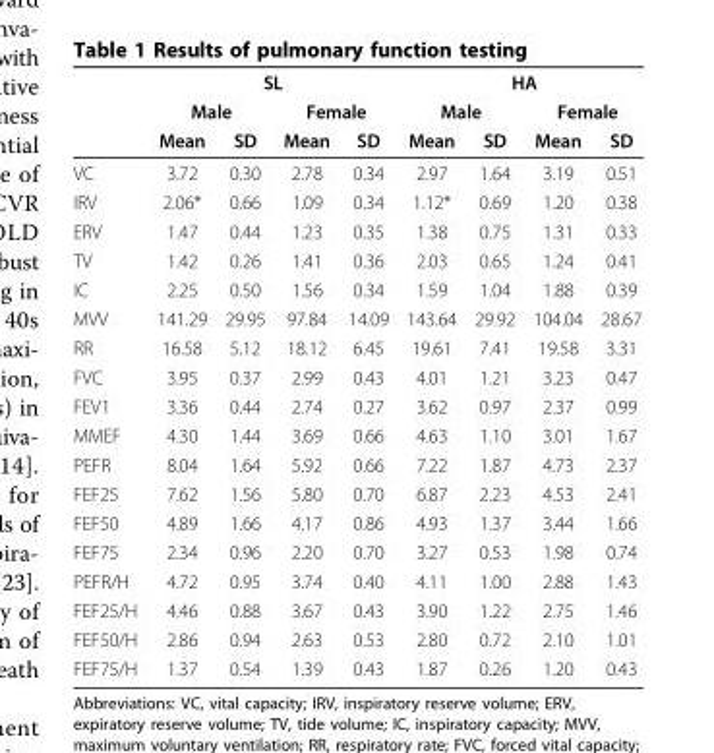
<table><thead><tr><td rowspan="3"></td><td colspan="4">SL</td><td colspan="4">HA</td></tr><tr><td colspan="2">Male</td><td colspan="2">Female</td><td colspan="2">Male</td><td colspan="2">Female</td></tr><tr><td>Mean</td><td>SD</td><td>Mean</td><td>SD</td><td>Mean</td><td>SD</td><td>Mean</td><td>SD</td></tr></thead><tbody><tr><td>VC</td><td>3.72</td><td>0.30</td><td>2.78</td><td>0.34</td><td>2.97</td><td>1.64</td><td>3.19</td><td>0.51</td></tr><tr><td>IRV</td><td>2.06*</td><td>0.66</td><td>1.09</td><td>0.34</td><td>1.12*</td><td>0.69</td><td>1.20</td><td>0.38</td></tr><tr><td>ERV</td><td>1.47</td><td>0.44</td><td>1.23</td><td>0.35</td><td>1.38</td><td>0.75</td><td>1.31</td><td>0.33</td></tr><tr><td>TV</td><td>1.42</td><td>0.26</td><td>1.41</td><td>0.36</td><td>2.03</td><td>0.65</td><td>1.24</td><td>0.41</td></tr><tr><td>IC</td><td>2.25</td><td>0.50</td><td>1.56</td><td>0.34</td><td>1.59</td><td>1.04</td><td>1.88</td><td>0.39</td></tr><tr><td>MVV</td><td>141.29</td><td>29.95</td><td>97.84</td><td>14.09</td><td>143.64</td><td>29.92</td><td>104.04</td><td>28.67</td></tr><tr><td>RR</td><td>16.58</td><td>5.12</td><td>18.12</td><td>6.45</td><td>19.61</td><td>7.41</td><td>19.58</td><td>3.31</td></tr><tr><td>FVC</td><td>3.95</td><td>0.37</td><td>2.99</td><td>0.43</td><td>4.01</td><td>1.21</td><td>3.23</td><td>0.47</td></tr><tr><td>FEV1</td><td>3.36</td><td>0.44</td><td>2.74</td><td>0.27</td><td>3.62</td><td>0.97</td><td>2.37</td><td>0.99</td></tr><tr><td>MMEF</td><td>4.30</td><td>1.44</td><td>3.69</td><td>0.66</td><td>4.63</td><td>1.10</td><td>3.01</td><td>1.67</td></tr><tr><td>PEFR</td><td>8.04</td><td>1.64</td><td>5.92</td><td>0.66</td><td>7.22</td><td>1.87</td><td>4.73</td><td>2.37</td></tr><tr><td>FEF25</td><td>7.62</td><td>1.56</td><td>5.80</td><td>0.70</td><td>6.87</td><td>2.23</td><td>4.53</td><td>2.41</td></tr><tr><td>FEF50</td><td>4.89</td><td>1.66</td><td>4.17</td><td>0.86</td><td>4.93</td><td>1.37</td><td>3.44</td><td>1.66</td></tr><tr><td>FEF75</td><td>2.34</td><td>0.96</td><td>2.20</td><td>0.70</td><td>3.27</td><td>0.53</td><td>1.98</td><td>0.74</td></tr><tr><td>PEFR/H</td><td>4.72</td><td>0.95</td><td>3.74</td><td>0.40</td><td>4.11</td><td>1.00</td><td>2.88</td><td>1.43</td></tr><tr><td>FEF25/H</td><td>4.46</td><td>0.88</td><td>3.67</td><td>0.43</td><td>3.90</td><td>1.22</td><td>2.75</td><td>1.46</td></tr><tr><td>FEF50/H</td><td>2.86</td><td>0.94</td><td>2.63</td><td>0.53</td><td>2.80</td><td>0.72</td><td>2.10</td><td>1.01</td></tr><tr><td>FEF75/H</td><td>1.37</td><td>0.54</td><td>1.39</td><td>0.43</td><td>1.87</td><td>0.26</td><td>1.20</td><td>0.43</td></tr></tbody></table>